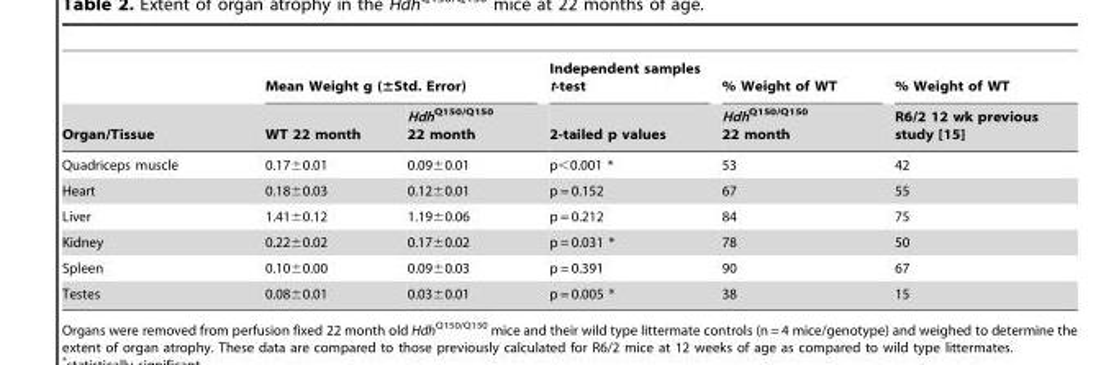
<table><thead><tr><td rowspan="2">Organ/Tissue</td><td colspan="2">Mean Weight g (±Std. Error)</td><td rowspan="2">Independent samples t-test 2-tailed p values</td><td rowspan="2">% Weight of WT Hdh<sup>Q150/Q150</sup> 22 month</td><td rowspan="2">% Weight of WT R6/2 12 wk previous study [15]</td></tr><tr><td>WT 22 month</td><td>Hdh<sup>Q150/Q150</sup> 22 month</td></tr></thead><tbody><tr><td>Quadriceps muscle</td><td>0.17±0.01</td><td>0.09±0.01</td><td>p&lt;0.001 *</td><td>53</td><td>42</td></tr><tr><td>Heart</td><td>0.18±0.03</td><td>0.12±0.01</td><td>p = 0.152</td><td>67</td><td>55</td></tr><tr><td>Liver</td><td>1.41±0.12</td><td>1.19±0.06</td><td>p = 0.212</td><td>84</td><td>75</td></tr><tr><td>Kidney</td><td>0.22±0.02</td><td>0.17±0.02</td><td>p = 0.031 *</td><td>78</td><td>50</td></tr><tr><td>Spleen</td><td>0.10±0.00</td><td>0.09±0.03</td><td>p = 0.391</td><td>90</td><td>67</td></tr><tr><td>Testes</td><td>0.08±0.01</td><td>0.03±0.01</td><td>p = 0.005 *</td><td>38</td><td>15</td></tr></tbody></table>